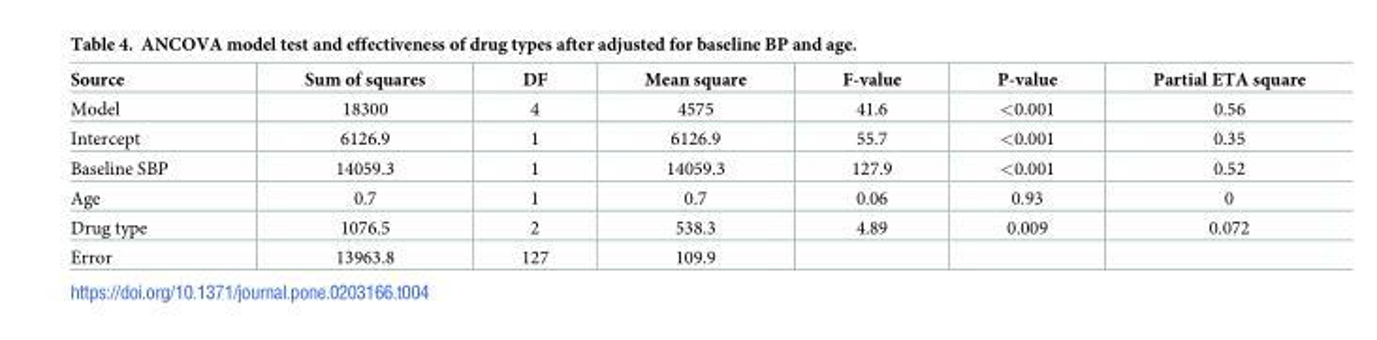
<table><thead><tr><td>Source</td><td>Sum of squares</td><td>DF</td><td>Mean square</td><td>F-value</td><td>P-value</td><td>Partial ETA square</td></tr></thead><tbody><tr><td>Model</td><td>18300</td><td>4</td><td>4575</td><td>41.6</td><td>&lt;0.001</td><td>0.56</td></tr><tr><td>Intercept</td><td>6126.9</td><td>1</td><td>6126.9</td><td>55.7</td><td>&lt;0.001</td><td>0.35</td></tr><tr><td>Baseline SBP</td><td>14059.3</td><td>1</td><td>14059.3</td><td>127.9</td><td>&lt;0.001</td><td>0.52</td></tr><tr><td>Age</td><td>0.7</td><td>1</td><td>0.7</td><td>0.06</td><td>0.93</td><td>0</td></tr><tr><td>Drug type</td><td>1076.5</td><td>2</td><td>538.3</td><td>4.89</td><td>0.009</td><td>0.072</td></tr><tr><td>Error</td><td>13963.8</td><td>127</td><td>109.9</td><td></td><td></td><td></td></tr></tbody></table>